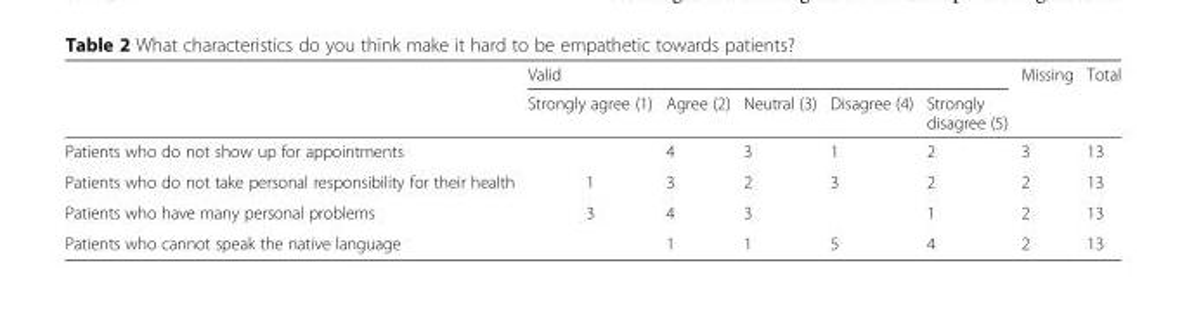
<table><thead><tr><td rowspan="2"></td><td colspan="5">Valid</td><td rowspan="2">Missing</td><td rowspan="2">Total</td></tr><tr><td>Strongly agree (1)</td><td>Agree (2)</td><td>Neutral (3)</td><td>Disagree (4)</td><td>Strongly disagree (5)</td></tr></thead><tbody><tr><td>Patients who do not show up for appointments</td><td></td><td>4</td><td>3</td><td>1</td><td>2</td><td>3</td><td>13</td></tr><tr><td>Patients who do not take personal responsibility for their health</td><td>1</td><td>3</td><td>2</td><td>3</td><td>2</td><td>2</td><td>13</td></tr><tr><td>Patients who have many personal problems</td><td>3</td><td>4</td><td>3</td><td></td><td>1</td><td>2</td><td>13</td></tr><tr><td>Patients who cannot speak the native language</td><td></td><td>1</td><td>1</td><td>5</td><td>4</td><td>2</td><td>13</td></tr></tbody></table>